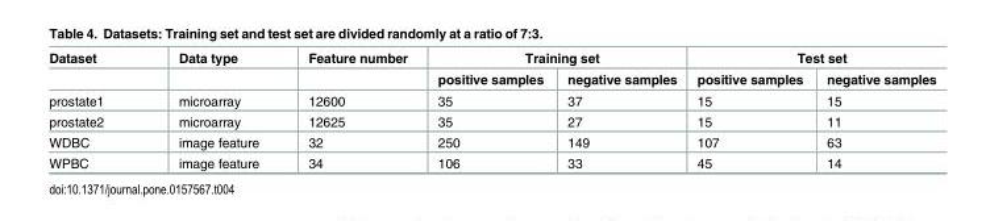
<table><thead><tr><td rowspan="2">Dataset</td><td rowspan="2">Data type</td><td rowspan="2">Feature number</td><td colspan="2">Training set</td><td colspan="2">Test set</td></tr><tr><td>positive samples</td><td>negative samples</td><td>positive samples</td><td>negative samples</td></tr></thead><tbody><tr><td>prostate1</td><td>microarray</td><td>12600</td><td>35</td><td>37</td><td>15</td><td>15</td></tr><tr><td>prostate2</td><td>microarray</td><td>12625</td><td>35</td><td>27</td><td>15</td><td>11</td></tr><tr><td>WDBC</td><td>image feature</td><td>32</td><td>250</td><td>149</td><td>107</td><td>63</td></tr><tr><td>WPBC</td><td>image feature</td><td>34</td><td>106</td><td>33</td><td>45</td><td>14</td></tr></tbody></table>